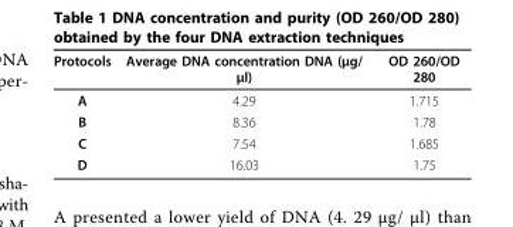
<table><thead><tr><td>Protocols</td><td>Average DNA concentration DNA (μg/ μl)</td><td>OD 260/OD 280</td></tr></thead><tbody><tr><td>A</td><td>4.29</td><td>1.715</td></tr><tr><td>B</td><td>8.36</td><td>1.78</td></tr><tr><td>C</td><td>7.54</td><td>1.685</td></tr><tr><td>D</td><td>16.03</td><td>1.75</td></tr></tbody></table>